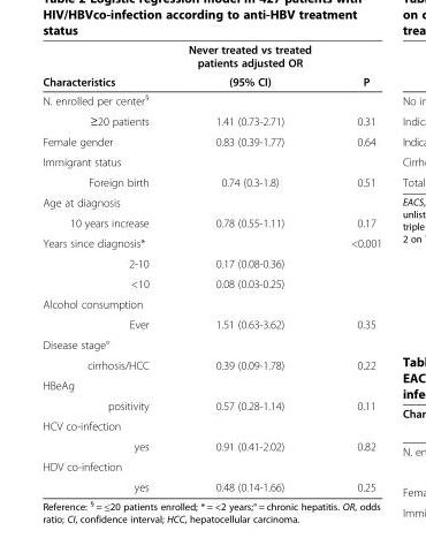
<table><thead><tr><td rowspan="2">Characteristics</td><td rowspan="2">Never treated vs treated patients adjusted OR (95% CI)</td><td rowspan="2">P</td></tr><tr></tr></thead><tbody><tr><td colspan="3">N. enrolled per center<sup>§</sup></td></tr><tr><td>≥20 patients</td><td>1.41 (0.73-2.71)</td><td>0.31</td></tr><tr><td>Female gender</td><td>0.83 (0.39-1.77)</td><td>0.64</td></tr><tr><td colspan="3">Immigrant status</td></tr><tr><td>Foreign birth</td><td>0.74 (0.3-1.8)</td><td>0.51</td></tr><tr><td colspan="3">Age at diagnosis</td></tr><tr><td>10 years increase</td><td>0.78 (0.55-1.11)</td><td>0.17</td></tr><tr><td colspan="2">Years since diagnosis*</td><td rowspan="3">&lt;0.001</td></tr><tr><td>2-10</td><td>0.17 (0.08-0.36)</td></tr><tr><td>&lt;10</td><td>0.08 (0.03-0.25)</td></tr><tr><td colspan="3">Alcohol consumption</td></tr><tr><td>Ever</td><td>1.51 (0.63-3.62)</td><td>0.35</td></tr><tr><td colspan="3">Disease stage°</td></tr><tr><td>cirrhosis/HCC</td><td>0.39 (0.09-1.78)</td><td>0.22</td></tr><tr><td colspan="3">HBeAg</td></tr><tr><td>positivity</td><td>0.57 (0.28-1.14)</td><td>0.11</td></tr><tr><td colspan="3">HCV co-infection</td></tr><tr><td>yes</td><td>0.91 (0.41-2.02)</td><td>0.82</td></tr><tr><td colspan="3">HDV co-infection</td></tr><tr><td>yes</td><td>0.48 (0.14-1.66)</td><td>0.25</td></tr></tbody></table>